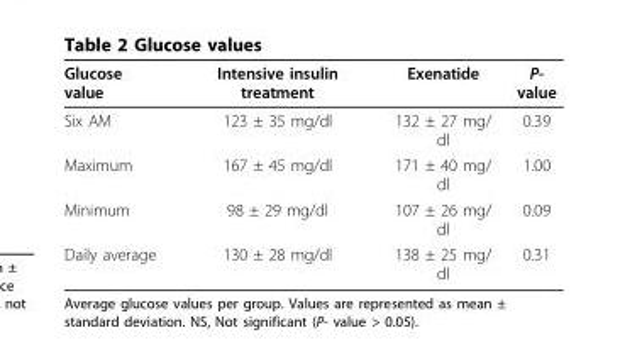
<table><thead><tr><td>Glucose value</td><td>Intensive insulin treatment</td><td>Exenatide</td><td>P- value</td></tr></thead><tbody><tr><td>Six AM</td><td>123 ± 35 mg/dl</td><td>132 ± 27 mg/ dl</td><td>0.39</td></tr><tr><td>Maximum</td><td>167 ± 45 mg/dl</td><td>171 ± 40 mg/ dl</td><td>1.00</td></tr><tr><td>Minimum</td><td>98 ± 29 mg/dl</td><td>107 ± 26 mg/ dl</td><td>0.09</td></tr><tr><td>Daily average</td><td>130 ± 28 mg/dl</td><td>138 ± 25 mg/ dl</td><td>0.31</td></tr></tbody></table>